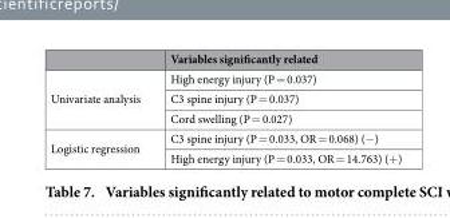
<table><thead><tr><td></td><td>Variables significantly related</td></tr></thead><tbody><tr><td rowspan="3">Univariate analysis</td><td>High energy injury (P = 0.037)</td></tr><tr><td>C3 spine injury (P = 0.037)</td></tr><tr><td>Cord swelling (P = 0.027)</td></tr><tr><td rowspan="2">Logistic regression</td><td>C3 spine injury (P = 0.033, OR = 0.068) (− )</td></tr><tr><td>High energy injury (P = 0.033, OR = 14.763) (+</td></tr></tbody></table>